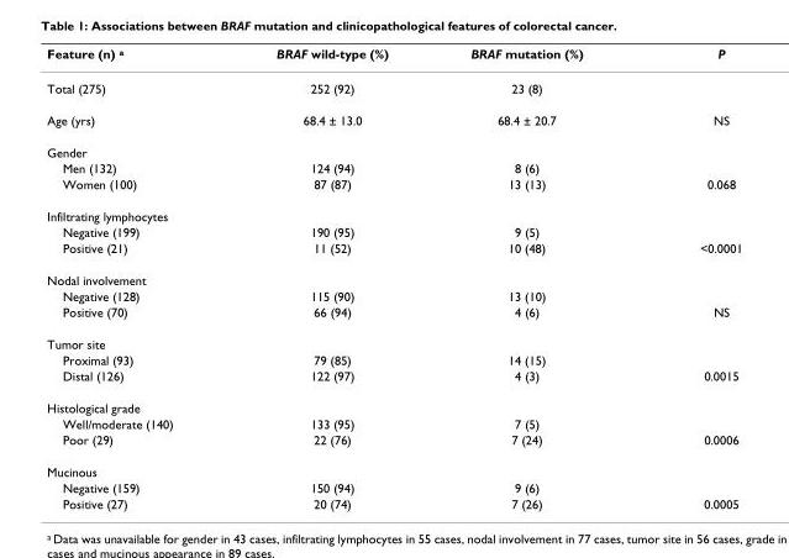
<table><thead><tr><td>Feature (n) <sup>a</sup></td><td>BRAF wild-type (%)</td><td>BRAF mutation (%)</td><td>P</td></tr></thead><tbody><tr><td>Total (275)</td><td>252 (92)</td><td>23 (8)</td><td></td></tr><tr><td>Age (yrs)</td><td>68.4 ± 13.0</td><td>68.4 ± 20.7</td><td>NS</td></tr><tr><td colspan="4">Gender</td></tr><tr><td>Men (132)</td><td>124 (94)</td><td>8 (6)</td><td></td></tr><tr><td>Women (100)</td><td>87 (87)</td><td>13 (13)</td><td>0.068</td></tr><tr><td colspan="4">Infiltrating lymphocytes</td></tr><tr><td>Negative (199)</td><td>190 (95)</td><td>9 (5)</td><td></td></tr><tr><td>Positive (21)</td><td>11 (52)</td><td>10 (48)</td><td>&lt;0.0001</td></tr><tr><td colspan="4">Nodal involvement</td></tr><tr><td>Negative (128)</td><td>115 (90)</td><td>13 (10)</td><td></td></tr><tr><td>Positive (70)</td><td>66 (94)</td><td>4 (6)</td><td>NS</td></tr><tr><td colspan="4">Tumor site</td></tr><tr><td>Proximal (93)</td><td>79 (85)</td><td>14 (15)</td><td></td></tr><tr><td>Distal (126)</td><td>122 (97)</td><td>4 (3)</td><td>0.0015</td></tr><tr><td colspan="4">Histological grade</td></tr><tr><td>Well/moderate (140)</td><td>133 (95)</td><td>7 (5)</td><td></td></tr><tr><td>Poor (29)</td><td>22 (76)</td><td>7 (24)</td><td>0.0006</td></tr><tr><td colspan="4">Mucinous</td></tr><tr><td>Negative (159)</td><td>150 (94)</td><td>9 (6)</td><td></td></tr><tr><td>Positive (27)</td><td>20 (74)</td><td>7 (26)</td><td>0.0005</td></tr></tbody></table>